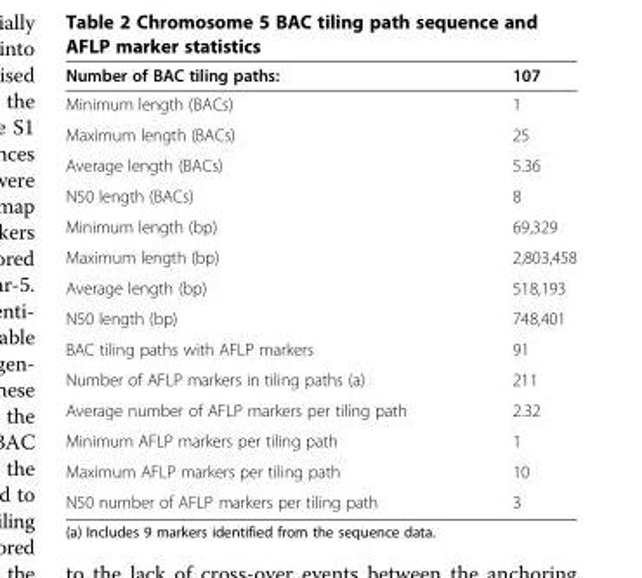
<table><thead><tr><td>Number of BAC tiling paths:</td><td>107</td></tr></thead><tbody><tr><td>Minimum length (BACs)</td><td>1</td></tr><tr><td>Maximum length (BACs)</td><td>25</td></tr><tr><td>Average length (BACs)</td><td>5.36</td></tr><tr><td>N50 length (BACs)</td><td>8</td></tr><tr><td>Minimum length (bp)</td><td>69,329</td></tr><tr><td>Maximum length (bp)</td><td>2,803,458</td></tr><tr><td>Average length (bp)</td><td>518,193</td></tr><tr><td>N50 length (bp)</td><td>748,401</td></tr><tr><td>BAC tiling paths with AFLP markers</td><td>91</td></tr><tr><td>Number of AFLP markers in tiling paths (a)</td><td>211</td></tr><tr><td>Average number of AFLP markers per tiling path</td><td>2.32</td></tr><tr><td>Minimum AFLP markers per tiling path</td><td>1</td></tr><tr><td>Maximum AFLP markers per tiling path</td><td>10</td></tr><tr><td>N50 number of AFLP markers per tiling path</td><td>3</td></tr></tbody></table>